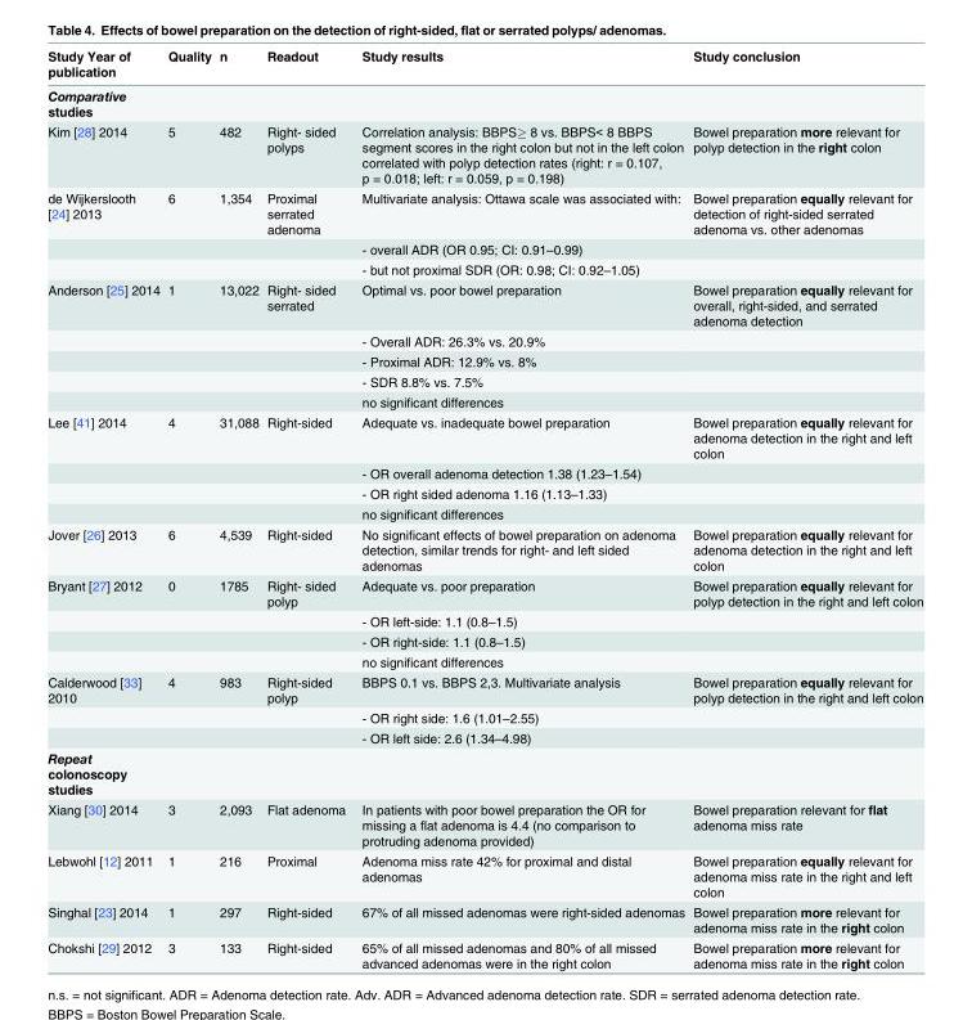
<table><thead><tr><td>Study Year of publication</td><td>Quality</td><td>n</td><td>Readout</td><td>Study results</td><td>Study conclusion</td></tr></thead><tbody><tr><td colspan="6">Comparative studies</td></tr><tr><td>Kim [28] 2014</td><td>5</td><td>482</td><td>Right- sided polyps</td><td>Correlation analysis: BBPS≥ 8 vs. BBPS&lt; 8 BBPS segment scores in the right colon but not in the left colon correlated with polyp detection rates (right: r = 0.107, p = 0.018; left: r = 0.059, p = 0.198)</td><td>Bowel preparation more relevant for polyp detection in the right colon</td></tr><tr><td rowspan="3">de Wijkerslooth [24] 2013</td><td>6</td><td>1,354</td><td>Proximal serrated adenoma</td><td>Multivariate analysis: Ottawa scale was associated with:</td><td>Bowel preparation equally relevant for detection of right-sided serrated adenoma vs. other adenomas</td></tr><tr><td></td><td></td><td></td><td>- overall ADR (OR 0.95; CI: 0.91–0.99)</td><td></td></tr><tr><td></td><td></td><td></td><td>- but not proximal SDR (OR: 0.98; CI: 0.92–1.05)</td><td></td></tr><tr><td rowspan="5">Anderson [25] 2014</td><td>1</td><td>13,022</td><td>Right- sided serrated</td><td>Optimal vs. poor bowel preparation</td><td>Bowel preparation equally relevant for overall, right-sided, and serrated adenoma detection</td></tr><tr><td></td><td></td><td></td><td>- Overall ADR: 26.3% vs. 20.9%</td><td></td></tr><tr><td></td><td></td><td></td><td>- Proximal ADR: 12.9% vs. 8%</td><td></td></tr><tr><td></td><td></td><td></td><td>- SDR 8.8% vs. 7.5%</td><td></td></tr><tr><td></td><td></td><td></td><td>no significant differences</td><td></td></tr><tr><td rowspan="4">Lee [41] 2014</td><td>4</td><td>31,088</td><td>Right-sided</td><td>Adequate vs. inadequate bowel preparation</td><td>Bowel preparation equally relevant for adenoma detection in the right and left colon</td></tr><tr><td></td><td></td><td></td><td>- OR overall adenoma detection 1.38 (1.23–1.54)</td><td></td></tr><tr><td></td><td></td><td></td><td>- OR right sided adenoma 1.16 (1.13–1.33)</td><td></td></tr><tr><td></td><td></td><td></td><td>no significant differences</td><td></td></tr><tr><td>Jover [26] 2013</td><td>6</td><td>4,539</td><td>Right-sided</td><td>No significant effects of bowel preparation on adenoma detection, similar trends for right- and left sided adenomas</td><td>Bowel preparation equally relevant for adenoma detection in the right and left colon</td></tr><tr><td rowspan="4">Bryant [27] 2012</td><td>0</td><td>1785</td><td>Right- sided polyp</td><td>Adequate vs. poor preparation</td><td>Bowel preparation equally relevant for polyp detection in the right and left colon</td></tr><tr><td></td><td></td><td></td><td>- OR left-side: 1.1 (0.8–1.5)</td><td></td></tr><tr><td></td><td></td><td></td><td>- OR right-side: 1.1 (0.8–1.5)</td><td></td></tr><tr><td></td><td></td><td></td><td>no significant differences</td><td></td></tr><tr><td rowspan="3">Calderwood [33] 2010</td><td>4</td><td>983</td><td>Right-sided polyp</td><td>BBPS 0.1 vs. BBPS 2,3. Multivariate analysis</td><td>Bowel preparation equally relevant for polyp detection in the right and left colon</td></tr><tr><td></td><td></td><td></td><td>- OR right side: 1.6 (1.01–2.55)</td><td></td></tr><tr><td></td><td></td><td></td><td>- OR left side: 2.6 (1.34–4.98)</td><td></td></tr><tr><td colspan="6">Repeat colonoscopy studies</td></tr><tr><td>Xiang [30] 2014</td><td>3</td><td>2,093</td><td>Flat adenoma</td><td>In patients with poor bowel preparation the OR for missing a flat adenoma is 4.4 (no comparison to protruding adenoma provided)</td><td>Bowel preparation relevant for flat adenoma miss rate</td></tr><tr><td>Lebwohl [12] 2011</td><td>1</td><td>216</td><td>Proximal</td><td>Adenoma miss rate 42% for proximal and distal adenomas</td><td>Bowel preparation equally relevant for adenoma miss rate in the right and left colon</td></tr><tr><td>Singhal [23] 2014</td><td>1</td><td>297</td><td>Right-sided</td><td>67% of all missed adenomas were right-sided adenomas</td><td>Bowel preparation more relevant for adenoma miss rate in the right colon</td></tr><tr><td>Chokshi [29] 2012</td><td>3</td><td>133</td><td>Right-sided</td><td>65% of all missed adenomas and 80% of all missed advanced adenomas were in the right colon</td><td>Bowel preparation more relevant for adenoma miss rate in the right colon</td></tr></tbody></table>